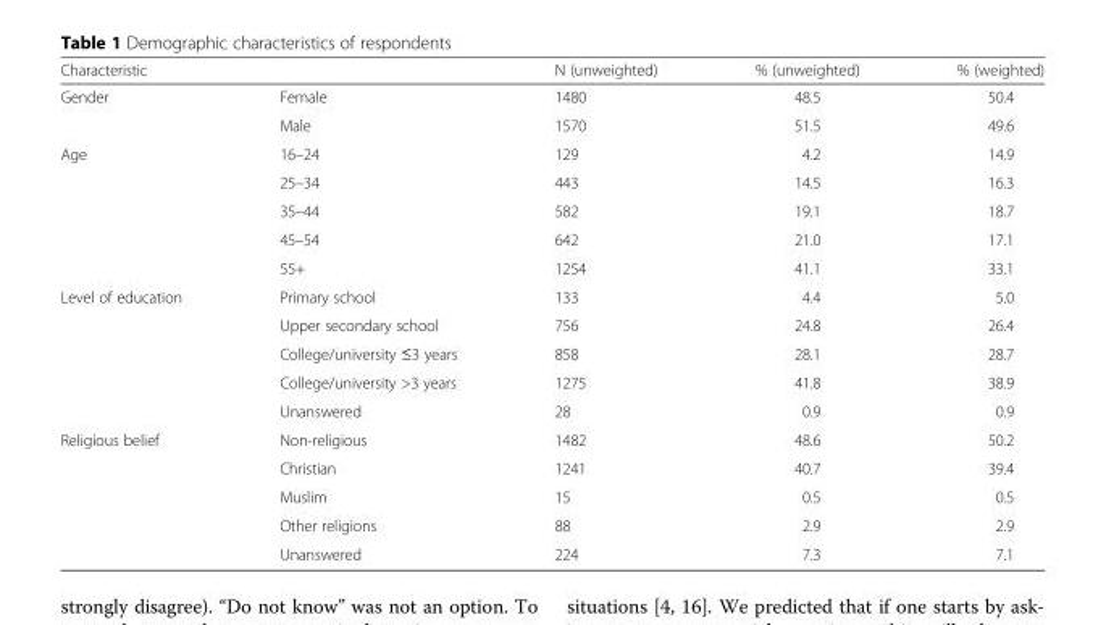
<table><thead><tr><td colspan="2">Characteristic</td><td rowspan="2">N (unweighted) 1480</td><td rowspan="2">% (unweighted) 48.5</td><td rowspan="2">% (weighted) 50.4</td></tr><tr><td>Gender</td><td>Female</td></tr></thead><tbody><tr><td></td><td>Male</td><td>1570</td><td>51.5</td><td>49.6</td></tr><tr><td rowspan="5">Age</td><td>16–24</td><td>129</td><td>4.2</td><td>14.9</td></tr><tr><td>25–34</td><td>443</td><td>14.5</td><td>16.3</td></tr><tr><td>35–44</td><td>582</td><td>19.1</td><td>18.7</td></tr><tr><td>45–54</td><td>642</td><td>21.0</td><td>17.1</td></tr><tr><td>55+</td><td>1254</td><td>41.1</td><td>33.1</td></tr><tr><td rowspan="5">Level of education</td><td>Primary school</td><td>133</td><td>4.4</td><td>5.0</td></tr><tr><td>Upper secondary school</td><td>756</td><td>24.8</td><td>26.4</td></tr><tr><td>College/university ≤3 years</td><td>858</td><td>28.1</td><td>28.7</td></tr><tr><td>College/university &gt;3 years</td><td>1275</td><td>41.8</td><td>38.9</td></tr><tr><td>Unanswered</td><td>28</td><td>0.9</td><td>0.9</td></tr><tr><td rowspan="5">Religious belief</td><td>Non-religious</td><td>1482</td><td>48.6</td><td>50.2</td></tr><tr><td>Christian</td><td>1241</td><td>40.7</td><td>39.4</td></tr><tr><td>Muslim</td><td>15</td><td>0.5</td><td>0.5</td></tr><tr><td>Other religions</td><td>88</td><td>2.9</td><td>2.9</td></tr><tr><td>Unanswered</td><td>224</td><td>7.3</td><td>7.1</td></tr></tbody></table>